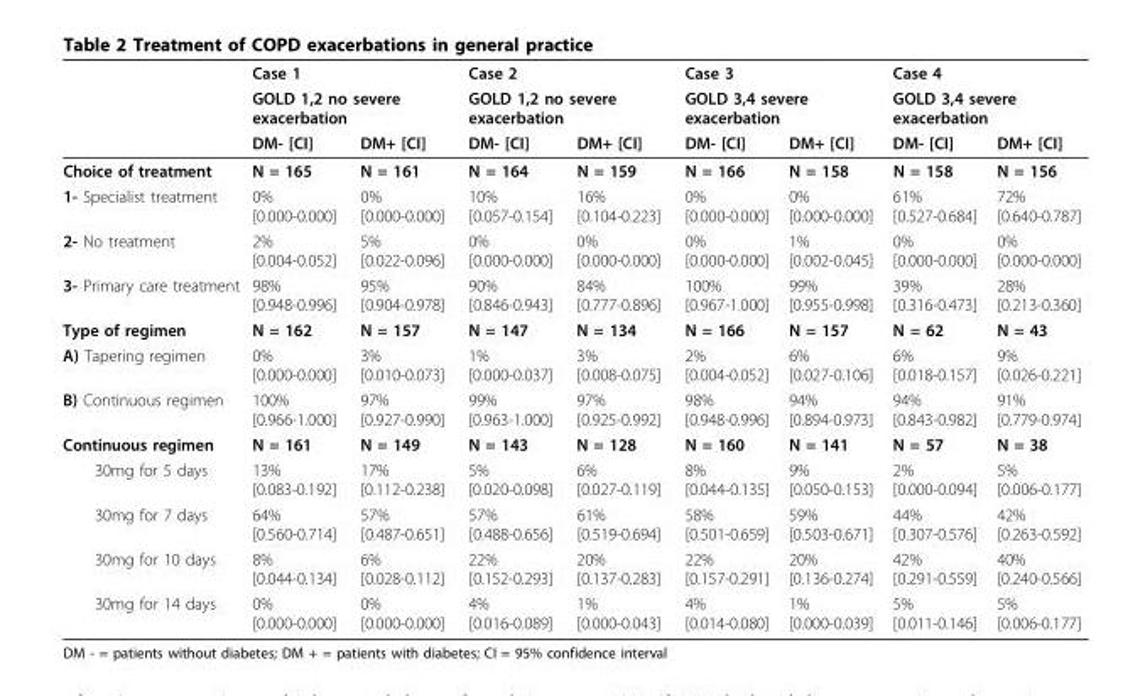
<table><thead><tr><td rowspan="3"></td><td rowspan="2" colspan="2">Case 1 GOLD 1,2 no severe exacerbation</td><td rowspan="2" colspan="2">Case 2 GOLD 1,2 no severe exacerbation</td><td rowspan="2" colspan="2">Case 3 GOLD 3,4 severe exacerbation</td><td rowspan="2" colspan="2">Case 4 GOLD 3,4 severe exacerbation</td></tr><tr></tr><tr><td>DM- [CI]</td><td>DM+ [CI]</td><td>DM- [CI]</td><td>DM+ [CI]</td><td>DM- [CI]</td><td>DM+ [CI]</td><td>DM- [CI]</td><td>DM+ [CI]</td></tr></thead><tbody><tr><td>Choice of treatment</td><td>N = 165</td><td>N = 161</td><td>N = 164</td><td>N = 159</td><td>N = 166</td><td>N = 158</td><td>N = 158</td><td>N = 156</td></tr><tr><td>1- Specialist treatment</td><td>0% [0.000-0.000]</td><td>0% [0.000-0.000]</td><td>10% [0.057-0.154]</td><td>16% [0.104-0.223]</td><td>0% [0.000-0.000]</td><td>0% [0.000-0.000]</td><td>61% [0.527-0.684]</td><td>72% [0.640-0.787]</td></tr><tr><td>2- No treatment</td><td>2% [0.004-0.052]</td><td>5% [0.022-0.096]</td><td>0% [0.000-0.000]</td><td>0% [0.000-0.000]</td><td>0% [0.000-0.000]</td><td>1% [0.002-0.045]</td><td>0% [0.000-0.000]</td><td>0% [0.000-0.000]</td></tr><tr><td>3- Primary care treatment</td><td>98% [0.948-0.996]</td><td>95% [0.904-0.978]</td><td>90% [0.846-0.943]</td><td>84% [0.777-0.896]</td><td>100% [0.967-1.000]</td><td>99% [0.955-0.998]</td><td>39% [0.316-0.473]</td><td>28% [0.213-0.360]</td></tr><tr><td>Type of regimen</td><td>N = 162</td><td>N = 157</td><td>N = 147</td><td>N = 134</td><td>N = 166</td><td>N = 157</td><td>N = 62</td><td>N = 43</td></tr><tr><td>A) Tapering regimen</td><td>0% [0.000-0.000]</td><td>3% [0.010-0.073]</td><td>1% [0.000-0.037]</td><td>3% [0.008-0.075]</td><td>2% [0.004-0.052]</td><td>6% [0.027-0.106]</td><td>6% [0.018-0.157]</td><td>9% [0.026-0.221]</td></tr><tr><td>B) Continuous regimen</td><td>100% [0.966-1.000]</td><td>97% [0.927-0.990]</td><td>99% [0.963-1.000]</td><td>97% [0.925-0.992]</td><td>98% [0.948-0.996]</td><td>94% [0.894-0.973]</td><td>94% [0.843-0.982]</td><td>91% [0.779-0.974]</td></tr><tr><td>Continuous regimen</td><td>N = 161</td><td>N = 149</td><td>N = 143</td><td>N = 128</td><td>N = 160</td><td>N = 141</td><td>N = 57</td><td>N = 38</td></tr><tr><td>30mg for 5 days</td><td>13% [0.083-0.192]</td><td>17% [0.112-0.238]</td><td>5% [0.020-0.098]</td><td>6% [0.027-0.119]</td><td>8% [0.044-0.135]</td><td>9% [0.050-0.153]</td><td>2% [0.000-0.094]</td><td>5% [0.006-0.177]</td></tr><tr><td>30mg for 7 days</td><td>64% [0.560-0.714]</td><td>57% [0.487-0.651]</td><td>57% [0.488-0.656]</td><td>61% [0.519-0.694]</td><td>58% [0.501-0.659]</td><td>59% [0.503-0.671]</td><td>44% [0.307-0.576]</td><td>42% [0.263-0.592]</td></tr><tr><td>30mg for 10 days</td><td>8% [0.044-0.134]</td><td>6% [0.028-0.112]</td><td>22% [0.152-0.293]</td><td>20% [0.137-0.283]</td><td>22% [0.157-0.291]</td><td>20% [0.136-0.274]</td><td>42% [0.291-0.559]</td><td>40% [0.240-0.566]</td></tr><tr><td>30mg for 14 days</td><td>0% [0.000-0.000]</td><td>0% [0.000-0.000]</td><td>4% [0.016-0.089]</td><td>1% [0.000-0.043]</td><td>4% [0.014-0.080]</td><td>1% [0.000-0.039]</td><td>5% [0.011-0.146]</td><td>5% [0.006-0.177]</td></tr></tbody></table>